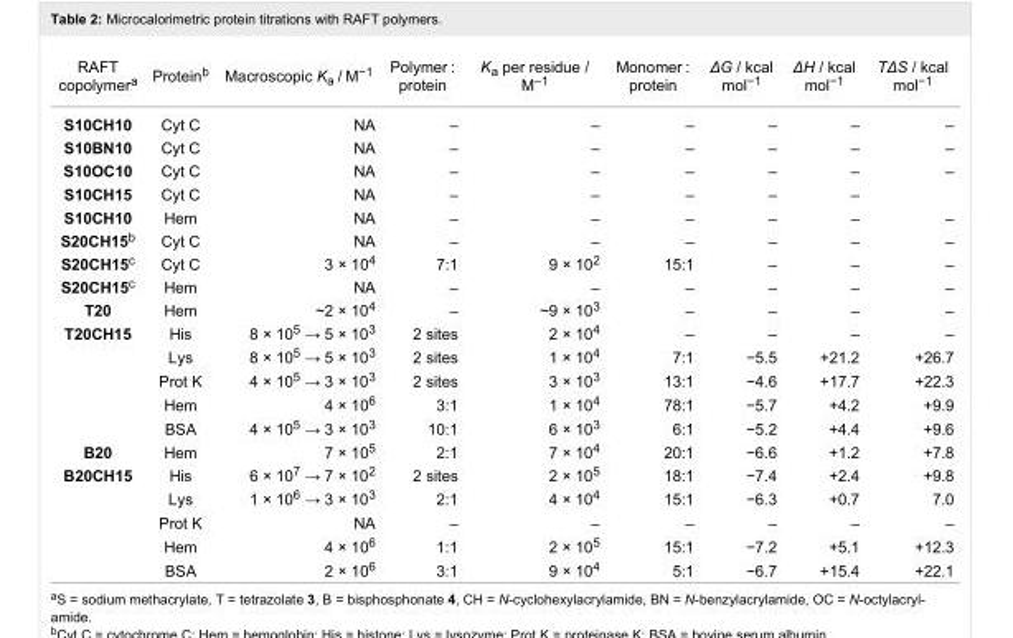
<table><tbody><tr><td>RAFT copolymer<sup>a</sup></td><td>Protein<sup>b</sup></td><td>Macroscopic K<sub>a</sub> / M<sup>−1</sup></td><td>Polymer : protein</td><td>K<sub>a</sub> per residue / M<sup>–1</sup></td><td>Monomer : protein</td><td>ΔG / kcal mol<sup>−1</sup></td><td>ΔH / kcal mol<sup>−1</sup></td><td>TΔS / kcal mol<sup>−1</sup></td></tr><tr><td>S10CH10</td><td>Cyt C</td><td>NA</td><td>–</td><td>–</td><td>–</td><td>–</td><td>–</td><td>–</td></tr><tr><td>S10BN10</td><td>Cyt C</td><td>NA</td><td>–</td><td>–</td><td>–</td><td>–</td><td>–</td><td>–</td></tr><tr><td>S10OC10</td><td>Cyt C</td><td>NA</td><td>–</td><td>–</td><td>–</td><td>–</td><td>–</td><td>–</td></tr><tr><td>S10CH15</td><td>Cyt C</td><td>NA</td><td>–</td><td>–</td><td>–</td><td>–</td><td>–</td><td></td></tr><tr><td>S10CH10</td><td>Hem</td><td>NA</td><td>–</td><td>–</td><td>–</td><td>–</td><td>–</td><td>–</td></tr><tr><td>S20CH15<sup>b</sup></td><td>Cyt C</td><td>NA</td><td>–</td><td>–</td><td>–</td><td>–</td><td>–</td><td>–</td></tr><tr><td>S20CH15<sup>c</sup></td><td>Cyt C</td><td>3 × 10<sup>4</sup></td><td>7:1</td><td>9 × 10<sup>2</sup></td><td>15:1</td><td>–</td><td>–</td><td>–</td></tr><tr><td>S20CH15<sup>c</sup></td><td>Hem</td><td>NA</td><td>–</td><td>–</td><td>–</td><td>–</td><td>–</td><td>–</td></tr><tr><td>T20</td><td>Hem</td><td>~2 × 10<sup>4</sup></td><td>–</td><td>~9 × 10<sup>3</sup></td><td>–</td><td>–</td><td>–</td><td>–</td></tr><tr><td rowspan="5">T20CH15</td><td>His</td><td>8 × 10<sup>5</sup> → 5 × 10<sup>3</sup></td><td>2 sites</td><td>2 × 10<sup>4</sup></td><td>–</td><td>–</td><td>–</td><td>–</td></tr><tr><td>Lys</td><td>8 × 10<sup>5</sup> → 5 × 10<sup>3</sup></td><td>2 sites</td><td>1 × 10<sup>4</sup></td><td>7:1</td><td>−5.5</td><td>+21.2</td><td>+26.7</td></tr><tr><td>Prot K</td><td>4 × 10<sup>5</sup> → 3 × 10<sup>3</sup></td><td>2 sites</td><td>3 × 10<sup>3</sup></td><td>13:1</td><td>−4.6</td><td>+17.7</td><td>+22.3</td></tr><tr><td>Hem</td><td>4 × 10<sup>6</sup></td><td>3:1</td><td>1 × 10<sup>4</sup></td><td>78:1</td><td>−5.7</td><td>+4.2</td><td>+9.9</td></tr><tr><td>BSA</td><td>4 × 10<sup>5</sup> → 3 × 10<sup>3</sup></td><td>10:1</td><td>6 × 10<sup>3</sup></td><td>6:1</td><td>−5.2</td><td>+4.4</td><td>+9.6</td></tr><tr><td>B20</td><td>Hem</td><td>7 × 10<sup>5</sup></td><td>2:1</td><td>7 × 10<sup>4</sup></td><td>20:1</td><td>−6.6</td><td>+1.2</td><td>+7.8</td></tr><tr><td rowspan="5">B20CH15</td><td>His</td><td>6 × 10<sup>7</sup> → 7 × 10<sup>2</sup></td><td>2 sites</td><td>2 × 10<sup>5</sup></td><td>18:1</td><td>−7.4</td><td>+2.4</td><td>+9.8</td></tr><tr><td>Lys</td><td>1 × 10<sup>6</sup> → 3 × 10<sup>3</sup></td><td>2:1</td><td>4 × 10<sup>4</sup></td><td>15:1</td><td>−6.3</td><td>+0.7</td><td>7.0</td></tr><tr><td>Prot K</td><td>NA</td><td>–</td><td>–</td><td>–</td><td>–</td><td>–</td><td>–</td></tr><tr><td>Hem</td><td>4 × 10<sup>6</sup></td><td>1:1</td><td>2 × 10<sup>5</sup></td><td>15:1</td><td>−7.2</td><td>+5.1</td><td>+12.3</td></tr><tr><td>BSA</td><td>2 × 10<sup>6</sup></td><td>3:1</td><td>9 × 10<sup>4</sup></td><td>5:1</td><td>−6.7</td><td>+15.4</td><td>+22.1</td></tr></tbody></table>